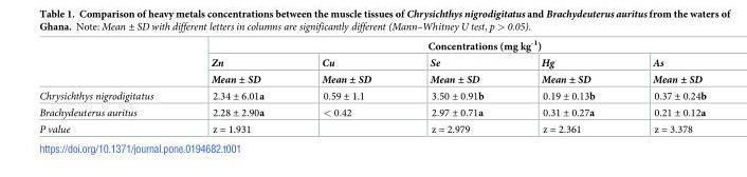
<table><thead><tr><td rowspan="3"></td><td colspan="5">Concentrations (mg kg<sup>-1</sup>)</td></tr><tr><td rowspan="2">Zn Mean ± SD</td><td rowspan="2">Cu Mean ± SD</td><td rowspan="2">Se Mean ± SD</td><td rowspan="2">Hg Mean ± SD</td><td rowspan="2">As Mean ± SD</td></tr><tr></tr></thead><tbody><tr><td>Chrysichthys nigrodigitatus</td><td>2.34 ± 6.01a</td><td>0.59 ± 1.1</td><td>3.50 ± 0.91b</td><td>0.19 ± 0.13b</td><td>0.37 ± 0.24b</td></tr><tr><td>Brachydeuterus auritus</td><td>2.28 ± 2.90a</td><td>&lt; 0.42</td><td>2.97 ± 0.71a</td><td>0.31 ± 0.27a</td><td>0.21 ± 0.12a</td></tr><tr><td>P value</td><td>z = 1.931</td><td></td><td>z = 2.979</td><td>z = 2.361</td><td>z = 3.378</td></tr></tbody></table>